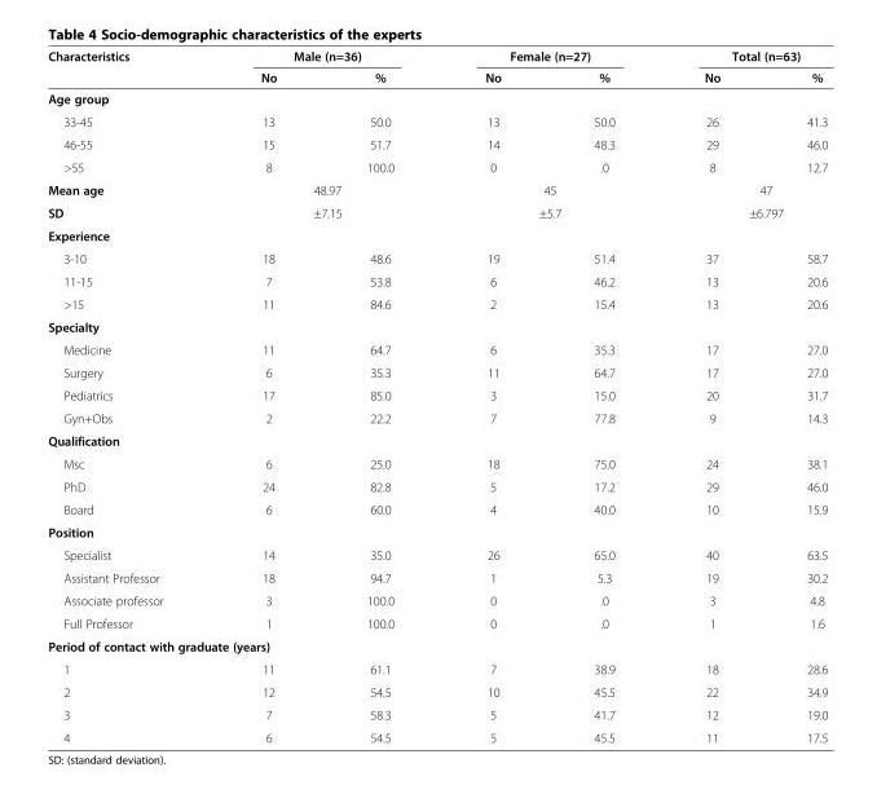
<table><thead><tr><td rowspan="2">Characteristics</td><td colspan="2">Male (n=36)</td><td colspan="2">Female (n=27)</td><td colspan="2">Total (n=63)</td></tr><tr><td>No</td><td>%</td><td>No</td><td>%</td><td>No</td><td>%</td></tr></thead><tbody><tr><td colspan="7">Age group</td></tr><tr><td>33-45</td><td>13</td><td>50.0</td><td>13</td><td>50.0</td><td>26</td><td>41.3</td></tr><tr><td>46-55</td><td>15</td><td>51.7</td><td>14</td><td>48.3</td><td>29</td><td>46.0</td></tr><tr><td>&gt;55</td><td>8</td><td>100.0</td><td>0</td><td>.0</td><td>8</td><td>12.7</td></tr><tr><td>Mean age</td><td colspan="2">48.97</td><td colspan="2">45</td><td colspan="2">47</td></tr><tr><td>SD</td><td colspan="2">±7.15</td><td colspan="2">±5.7</td><td colspan="2">±6.797</td></tr><tr><td colspan="7">Experience</td></tr><tr><td>3-10</td><td>18</td><td>48.6</td><td>19</td><td>51.4</td><td>37</td><td>58.7</td></tr><tr><td>11-15</td><td>7</td><td>53.8</td><td>6</td><td>46.2</td><td>13</td><td>20.6</td></tr><tr><td>&gt;15</td><td>11</td><td>84.6</td><td>2</td><td>15.4</td><td>13</td><td>20.6</td></tr><tr><td colspan="7">Specialty</td></tr><tr><td>Medicine</td><td>11</td><td>64.7</td><td>6</td><td>35.3</td><td>17</td><td>27.0</td></tr><tr><td>Surgery</td><td>6</td><td>35.3</td><td>11</td><td>64.7</td><td>17</td><td>27.0</td></tr><tr><td>Pediatrics</td><td>17</td><td>85.0</td><td>3</td><td>15.0</td><td>20</td><td>31.7</td></tr><tr><td>Gyn+Obs</td><td>2</td><td>22.2</td><td>7</td><td>77.8</td><td>9</td><td>14.3</td></tr><tr><td colspan="7">Qualification</td></tr><tr><td>Msc</td><td>6</td><td>25.0</td><td>18</td><td>75.0</td><td>24</td><td>38.1</td></tr><tr><td>PhD</td><td>24</td><td>82.8</td><td>5</td><td>17.2</td><td>29</td><td>46.0</td></tr><tr><td>Board</td><td>6</td><td>60.0</td><td>4</td><td>40.0</td><td>10</td><td>15.9</td></tr><tr><td colspan="7">Position</td></tr><tr><td>Specialist</td><td>14</td><td>35.0</td><td>26</td><td>65.0</td><td>40</td><td>63.5</td></tr><tr><td>Assistant Professor</td><td>18</td><td>94.7</td><td>1</td><td>5.3</td><td>19</td><td>30.2</td></tr><tr><td>Associate professor</td><td>3</td><td>100.0</td><td>0</td><td>.0</td><td>3</td><td>4.8</td></tr><tr><td>Full Professor</td><td>1</td><td>100.0</td><td>0</td><td>.0</td><td>1</td><td>1.6</td></tr><tr><td colspan="7">Period of contact with graduate (years)</td></tr><tr><td>1</td><td>11</td><td>61.1</td><td>7</td><td>38.9</td><td>18</td><td>28.6</td></tr><tr><td>2</td><td>12</td><td>54.5</td><td>10</td><td>45.5</td><td>22</td><td>34.9</td></tr><tr><td>3</td><td>7</td><td>58.3</td><td>5</td><td>41.7</td><td>12</td><td>19.0</td></tr><tr><td>4</td><td>6</td><td>54.5</td><td>5</td><td>45.5</td><td>11</td><td>17.5</td></tr></tbody></table>